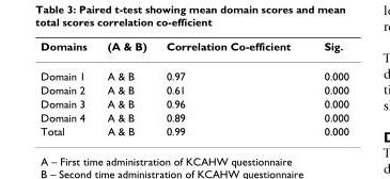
<table><thead><tr><td>Domains</td><td>(A &amp; B)</td><td>Correlation Co-efficient</td><td>Sig.</td></tr></thead><tbody><tr><td>Domain 1</td><td>A &amp; B</td><td>0.97</td><td>0.000</td></tr><tr><td>Domain 2</td><td>A &amp; B</td><td>0.61</td><td>0.000</td></tr><tr><td>Domain 3</td><td>A &amp; B</td><td>0.96</td><td>0.000</td></tr><tr><td>Domain 4</td><td>A &amp; B</td><td>0.89</td><td>0.000</td></tr><tr><td>Total</td><td>A &amp; B</td><td>0.99</td><td>0.000</td></tr></tbody></table>